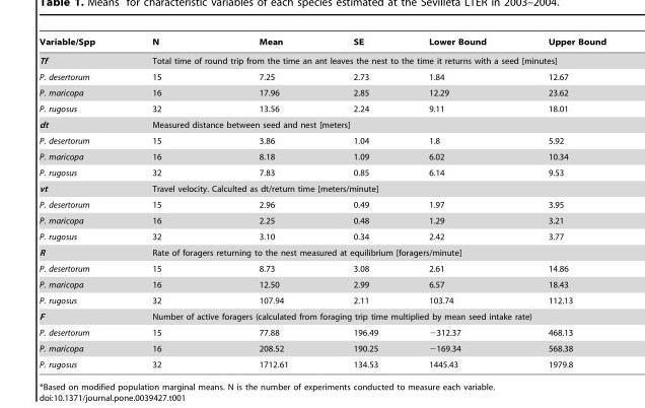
<table><thead><tr><td>Variable/Spp</td><td>N</td><td>Mean</td><td>SE</td><td>Lower Bound</td><td>Upper Bound</td></tr></thead><tbody><tr><td>Tf</td><td colspan="5">Total time of round trip from the time an ant leaves the nest to the time it returns with a seed [minutes]</td></tr><tr><td>P. desertorum</td><td>15</td><td>7.25</td><td>2.73</td><td>1.84</td><td>12.67</td></tr><tr><td>P. maricopa</td><td>16</td><td>17.96</td><td>2.85</td><td>12.29</td><td>23.62</td></tr><tr><td>P. rugosus</td><td>32</td><td>13.56</td><td>2.24</td><td>9.11</td><td>18.01</td></tr><tr><td>dt</td><td colspan="5">Measured distance between seed and nest [meters]</td></tr><tr><td>P. desertorum</td><td>15</td><td>3.86</td><td>1.04</td><td>1.8</td><td>5.92</td></tr><tr><td>P. maricopa</td><td>16</td><td>8.18</td><td>1.09</td><td>6.02</td><td>10.34</td></tr><tr><td>P. rugosus</td><td>32</td><td>7.83</td><td>0.85</td><td>6.14</td><td>9.53</td></tr><tr><td>vt</td><td colspan="5">Travel velocity. Calculted as dt/return time [meters/minute]</td></tr><tr><td>P. desertorum</td><td>15</td><td>2.96</td><td>0.49</td><td>1.97</td><td>3.95</td></tr><tr><td>P. maricopa</td><td>16</td><td>2.25</td><td>0.48</td><td>1.29</td><td>3.21</td></tr><tr><td>P. rugosus</td><td>32</td><td>3.10</td><td>0.34</td><td>2.42</td><td>3.77</td></tr><tr><td>R</td><td colspan="5">Rate of foragers returning to the nest measured at equilibrium [foragers/minute]</td></tr><tr><td>P. desertorum</td><td>15</td><td>8.73</td><td>3.08</td><td>2.61</td><td>14.86</td></tr><tr><td>P. maricopa</td><td>16</td><td>12.50</td><td>2.99</td><td>6.57</td><td>18.43</td></tr><tr><td>P. rugosus</td><td>32</td><td>107.94</td><td>2.11</td><td>103.74</td><td>112.13</td></tr><tr><td>F</td><td colspan="5">Number of active foragers (calculated from foraging trip time multiplied by mean seed intake rate)</td></tr><tr><td>P. desertorum</td><td>15</td><td>77.88</td><td>196.49</td><td>−312.37</td><td>468.13</td></tr><tr><td>P. maricopa</td><td>16</td><td>208.52</td><td>190.25</td><td>−169.34</td><td>568.38</td></tr><tr><td>P. rugosus</td><td>32</td><td>1712.61</td><td>134.53</td><td>1445.43</td><td>1979.8</td></tr></tbody></table>